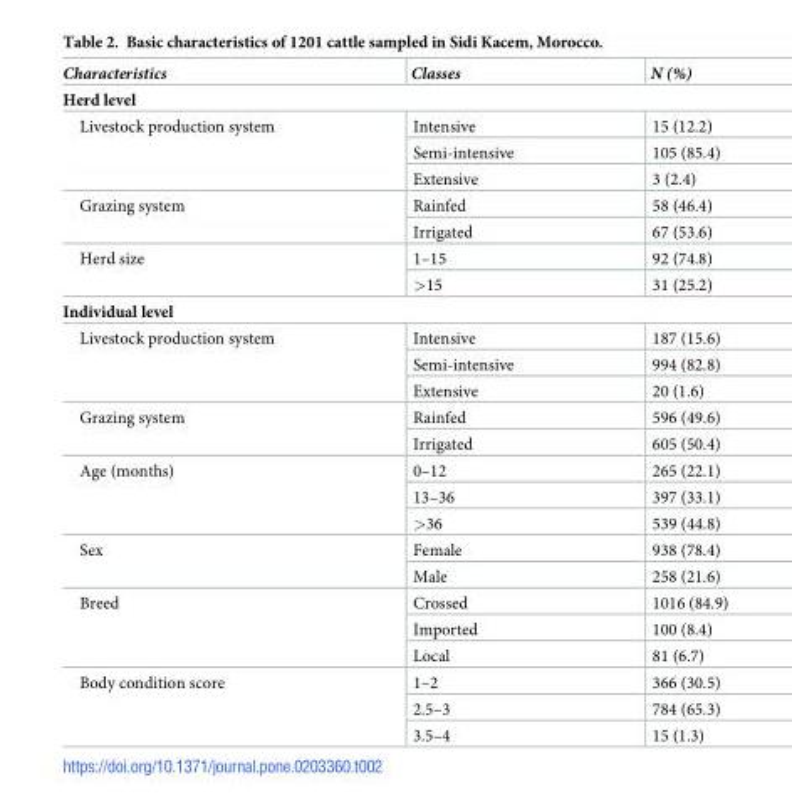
<table><thead><tr><td>Characteristics</td><td>Classes</td><td>N (%)</td></tr></thead><tbody><tr><td colspan="3">Herd level</td></tr><tr><td rowspan="3">Livestock production system</td><td>Intensive</td><td>15 (12.2)</td></tr><tr><td>Semi-intensive</td><td>105 (85.4)</td></tr><tr><td>Extensive</td><td>3 (2.4)</td></tr><tr><td rowspan="2">Grazing system</td><td>Rainfed</td><td>58 (46.4)</td></tr><tr><td>Irrigated</td><td>67 (53.6)</td></tr><tr><td rowspan="2">Herd size</td><td>1–15</td><td>92 (74.8)</td></tr><tr><td>&gt;15</td><td>31 (25.2)</td></tr><tr><td colspan="3">Individual level</td></tr><tr><td rowspan="3">Livestock production system</td><td>Intensive</td><td>187 (15.6)</td></tr><tr><td>Semi-intensive</td><td>994 (82.8)</td></tr><tr><td>Extensive</td><td>20 (1.6)</td></tr><tr><td rowspan="2">Grazing system</td><td>Rainfed</td><td>596 (49.6)</td></tr><tr><td>Irrigated</td><td>605 (50.4)</td></tr><tr><td rowspan="3">Age (months)</td><td>0–12</td><td>265 (22.1)</td></tr><tr><td>13–36</td><td>397 (33.1)</td></tr><tr><td>&gt;36</td><td>539 (44.8)</td></tr><tr><td rowspan="2">Sex</td><td>Female</td><td>938 (78.4)</td></tr><tr><td>Male</td><td>258 (21.6)</td></tr><tr><td rowspan="3">Breed</td><td>Crossed</td><td>1016 (84.9)</td></tr><tr><td>Imported</td><td>100 (8.4)</td></tr><tr><td>Local</td><td>81 (6.7)</td></tr><tr><td rowspan="3">Body condition score</td><td>1–2</td><td>366 (30.5)</td></tr><tr><td>2.5–3</td><td>784 (65.3)</td></tr><tr><td>3.5–4</td><td>15 (1.3)</td></tr></tbody></table>